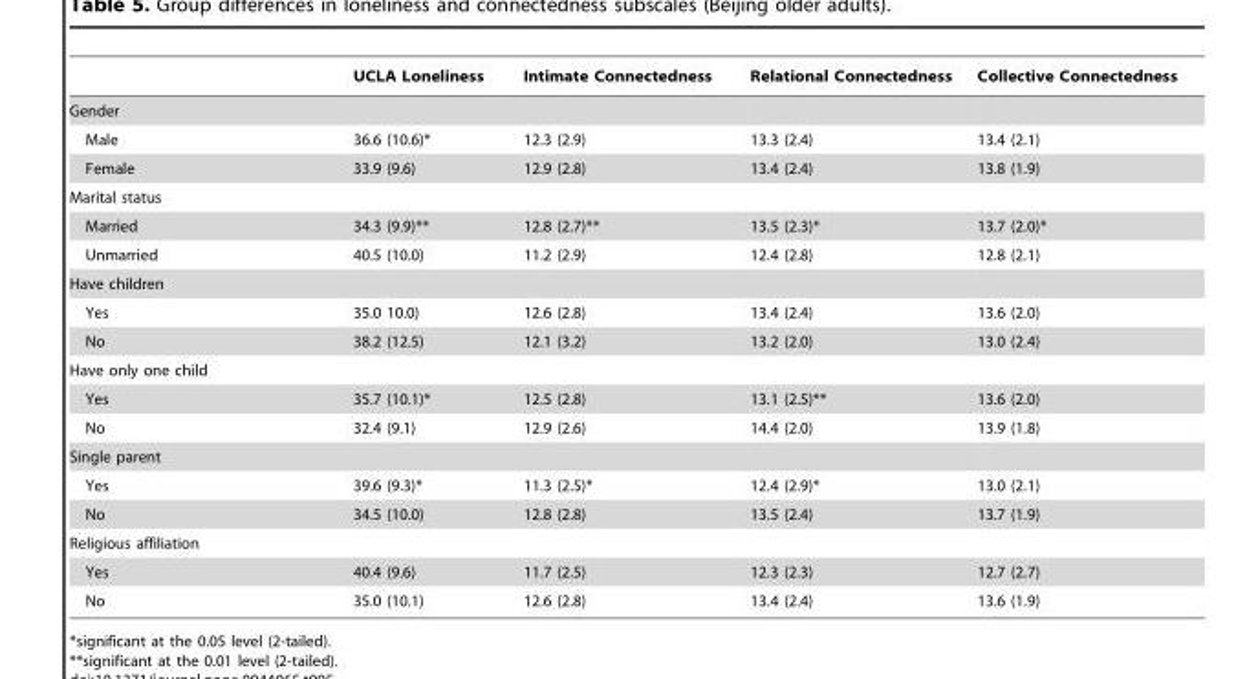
<table><thead><tr><td></td><td>UCLA Loneliness</td><td>Intimate Connectedness</td><td>Relational Connectedness</td><td>Collective Connectedness</td></tr></thead><tbody><tr><td colspan="5">Gender</td></tr><tr><td>Male</td><td>36.6 (10.6)*</td><td>12.3 (2.9)</td><td>13.3 (2.4)</td><td>13.4 (2.1)</td></tr><tr><td>Female</td><td>33.9 (9.6)</td><td>12.9 (2.8)</td><td>13.4 (2.4)</td><td>13.8 (1.9)</td></tr><tr><td colspan="5">Marital status</td></tr><tr><td>Married</td><td>34.3 (9.9)**</td><td>12.8 (2.7)**</td><td>13.5 (2.3)*</td><td>13.7 (2.0)*</td></tr><tr><td>Unmarried</td><td>40.5 (10.0)</td><td>11.2 (2.9)</td><td>12.4 (2.8)</td><td>12.8 (2.1)</td></tr><tr><td colspan="5">Have children</td></tr><tr><td>Yes</td><td>35.0 10.0)</td><td>12.6 (2.8)</td><td>13.4 (2.4)</td><td>13.6 (2.0)</td></tr><tr><td>No</td><td>38.2 (12.5)</td><td>12.1 (3.2)</td><td>13.2 (2.0)</td><td>13.0 (2.4)</td></tr><tr><td colspan="5">Have only one child</td></tr><tr><td>Yes</td><td>35.7 (10.1)*</td><td>12.5 (2.8)</td><td>13.1 (2.5)**</td><td>13.6 (2.0)</td></tr><tr><td>No</td><td>32.4 (9.1)</td><td>12.9 (2.6)</td><td>14.4 (2.0)</td><td>13.9 (1.8)</td></tr><tr><td colspan="5">Single parent</td></tr><tr><td>Yes</td><td>39.6 (9.3)*</td><td>11.3 (2.5)*</td><td>12.4 (2.9)*</td><td>13.0 (2.1)</td></tr><tr><td>No</td><td>34.5 (10.0)</td><td>12.8 (2.8)</td><td>13.5 (2.4)</td><td>13.7 (1.9)</td></tr><tr><td colspan="5">Religious affiliation</td></tr><tr><td>Yes</td><td>40.4 (9.6)</td><td>11.7 (2.5)</td><td>12.3 (2.3)</td><td>12.7 (2.7)</td></tr><tr><td>No</td><td>35.0 (10.1)</td><td>12.6 (2.8)</td><td>13.4 (2.4)</td><td>13.6 (1.9)</td></tr></tbody></table>